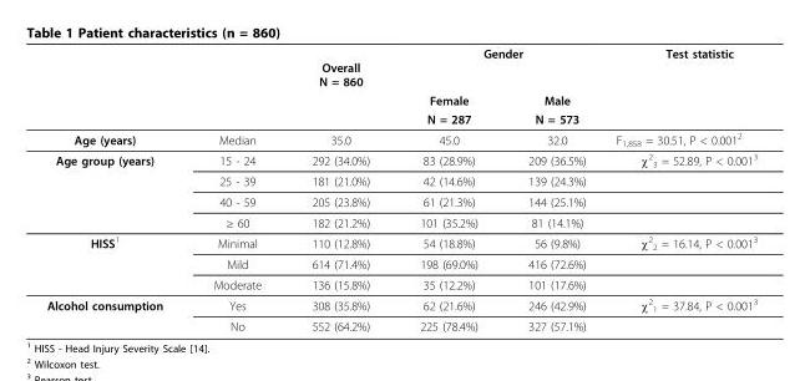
<table><thead><tr><td rowspan="3"></td><td rowspan="3"></td><td rowspan="3">Overall N = 860</td><td colspan="2">Gender</td><td rowspan="3">Test statistic</td></tr><tr><td rowspan="2">Female N = 287</td><td rowspan="2">Male N = 573</td></tr><tr></tr></thead><tbody><tr><td>Age (years)</td><td>Median</td><td>35.0</td><td>45.0</td><td>32.0</td><td>F1,858 = 30.51, P &lt; 0.0012</td></tr><tr><td rowspan="4">Age group (years)</td><td>15 - 24</td><td>292 (34.0%)</td><td>83 (28.9%)</td><td>209 (36.5%)</td><td>χ<sup>2</sup> <sub>3</sub> = 52.89, P &lt; 0.001<sup>3</sup></td></tr><tr><td>25 - 39</td><td>181 (21.0%)</td><td>42 (14.6%)</td><td>139 (24.3%)</td><td></td></tr><tr><td>40 - 59</td><td>205 (23.8%)</td><td>61 (21.3%)</td><td>144 (25.1%)</td><td></td></tr><tr><td>≥ 60</td><td>182 (21.2%)</td><td>101 (35.2%)</td><td>81 (14.1%)</td><td></td></tr><tr><td rowspan="3">HISS<sup>1</sup></td><td>Minimal</td><td>110 (12.8%)</td><td>54 (18.8%)</td><td>56 (9.8%)</td><td>χ<sup>2</sup> <sub>2</sub> = 16.14, P &lt; 0.001<sup>3</sup></td></tr><tr><td>Mild</td><td>614 (71.4%)</td><td>198 (69.0%)</td><td>416 (72.6%)</td><td></td></tr><tr><td>Moderate</td><td>136 (15.8%)</td><td>35 (12.2%)</td><td>101 (17.6%)</td><td></td></tr><tr><td rowspan="2">Alcohol consumption</td><td>Yes</td><td>308 (35.8%)</td><td>62 (21.6%)</td><td>246 (42.9%)</td><td>χ<sup>2</sup> <sub>1</sub> = 37.84, P &lt; 0.001<sup>3</sup></td></tr><tr><td>No</td><td>552 (64.2%)</td><td>225 (78.4%)</td><td>327 (57.1%)</td><td></td></tr></tbody></table>